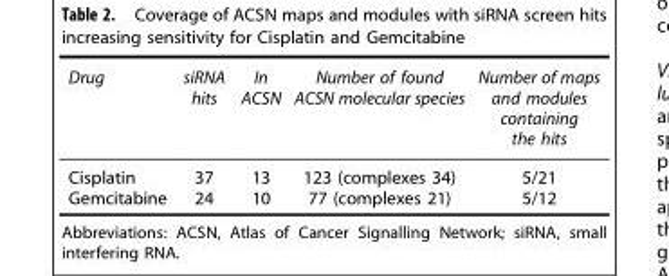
<table><thead><tr><td>Drug</td><td>siRNA hits</td><td>In ACSN</td><td>Number of found ACSN molecular species</td><td>Number of maps and modules containing the hits</td></tr></thead><tbody><tr><td>Cisplatin</td><td>37</td><td>13</td><td>123 (complexes 34)</td><td>5/21</td></tr><tr><td>Gemcitabine</td><td>24</td><td>10</td><td>77 (complexes 21)</td><td>5/12</td></tr></tbody></table>